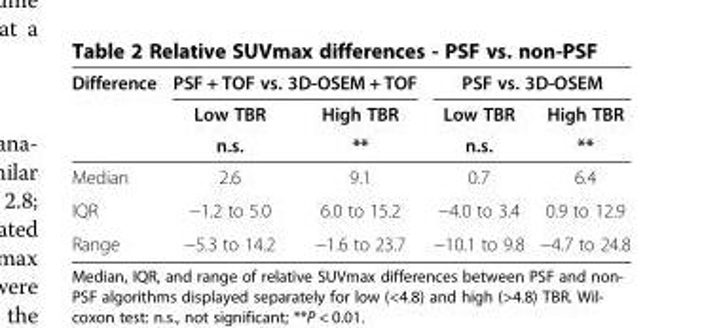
<table><thead><tr><td rowspan="3">Difference</td><td colspan="2">PSF + TOF vs. 3D-OSEM + TOF</td><td colspan="2">PSF vs. 3D-OSEM</td></tr><tr><td rowspan="2">Low TBR n.s.</td><td rowspan="2">High TBR **</td><td rowspan="2">Low TBR n.s.</td><td rowspan="2">High TBR **</td></tr><tr></tr></thead><tbody><tr><td>Median</td><td>2.6</td><td>9.1</td><td>0.7</td><td>6.4</td></tr><tr><td>IQR</td><td>−1.2 to 5.0</td><td>6.0 to 15.2</td><td>−4.0 to 3.4</td><td>0.9 to 12.9</td></tr><tr><td>Range</td><td>−5.3 to 14.2</td><td>−1.6 to 23.7</td><td>−10.1 to 9.8</td><td>−4.7 to 24.8</td></tr></tbody></table>